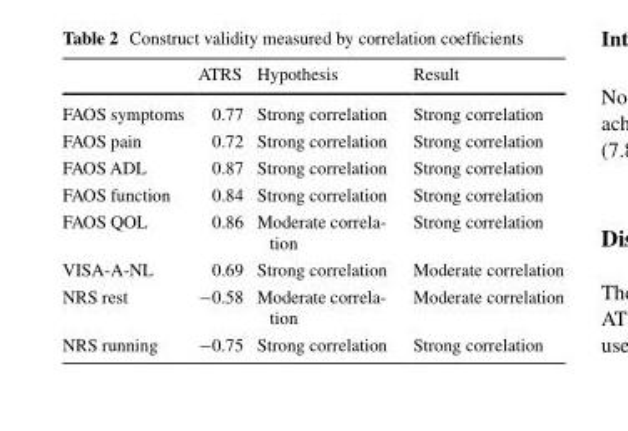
<table><thead><tr><td></td><td>ATRS</td><td>Hypothesis</td><td>Result</td></tr></thead><tbody><tr><td>FAOS symptoms</td><td>0.77</td><td>Strong correlation</td><td>Strong correlation</td></tr><tr><td>FAOS pain</td><td>0.72</td><td>Strong correlation</td><td>Strong correlation</td></tr><tr><td>FAOS ADL</td><td>0.87</td><td>Strong correlation</td><td>Strong correlation</td></tr><tr><td>FAOS function</td><td>0.84</td><td>Strong correlation</td><td>Strong correlation</td></tr><tr><td>FAOS QOL</td><td>0.86</td><td>Moderate correla- tion</td><td>Strong correlation</td></tr><tr><td>VISA-A-NL</td><td>0.69</td><td>Strong correlation</td><td>Moderate correlation</td></tr><tr><td>NRS rest</td><td>−0.58</td><td>Moderate correla- tion</td><td>Moderate correlation</td></tr><tr><td>NRS running</td><td>−0.75</td><td>Strong correlation</td><td>Strong correlation</td></tr></tbody></table>